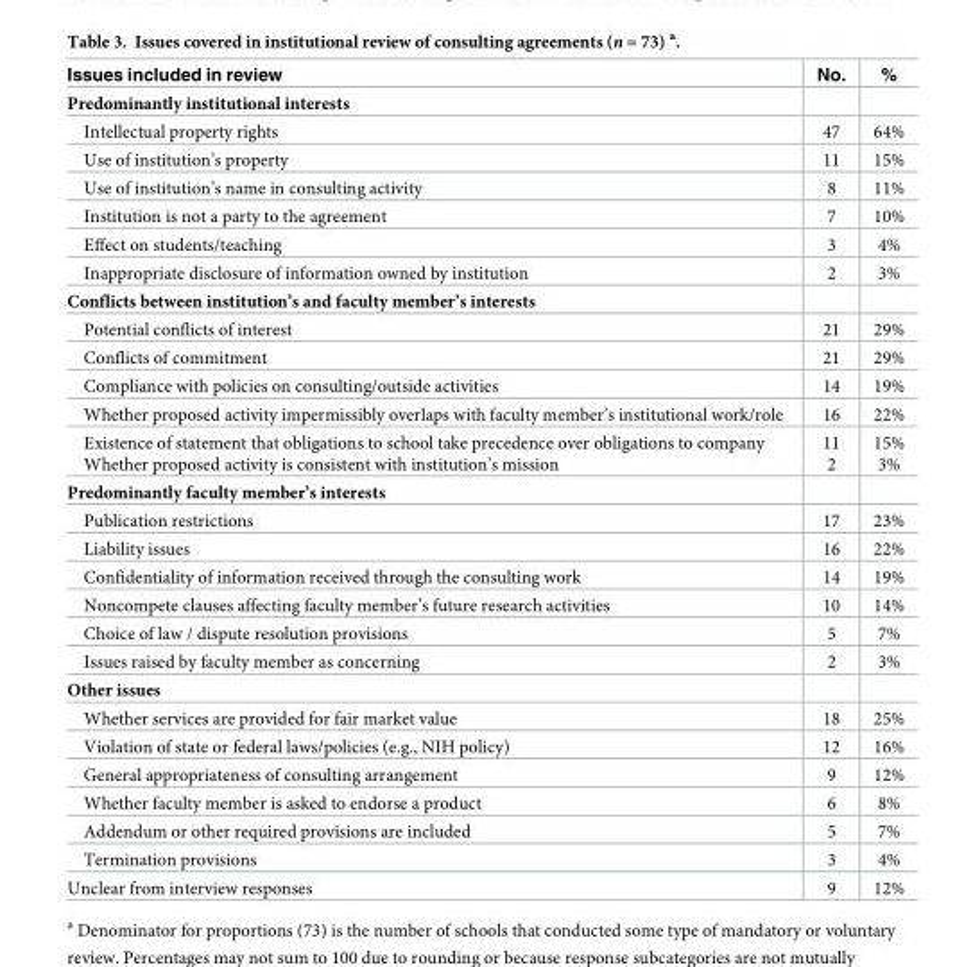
<table><thead><tr><td>Issues included in review</td><td>No.</td><td>%</td></tr></thead><tbody><tr><td colspan="3">Predominantly institutional interests</td></tr><tr><td>Intellectual property rights</td><td>47</td><td>64%</td></tr><tr><td>Use of institution’s property</td><td>11</td><td>15%</td></tr><tr><td>Use of institution’s name in consulting activity</td><td>8</td><td>11%</td></tr><tr><td>Institution is not a party to the agreement</td><td>7</td><td>10%</td></tr><tr><td>Effect on students/teaching</td><td>3</td><td>4%</td></tr><tr><td>Inappropriate disclosure of information owned by institution</td><td>2</td><td>3%</td></tr><tr><td colspan="3">Conflicts between institution’s and faculty member’s interests</td></tr><tr><td>Potential conflicts of interest</td><td>21</td><td>29%</td></tr><tr><td>Conflicts of commitment</td><td>21</td><td>29%</td></tr><tr><td>Compliance with policies on consulting/outside activities</td><td>14</td><td>19%</td></tr><tr><td>Whether proposed activity impermissibly overlaps with faculty member’s institutional work/role</td><td>16</td><td>22%</td></tr><tr><td>Existence of statement that obligations to school take precedence over obligations to company Whether proposed activity is consistent with institution’s mission</td><td>11 2</td><td>15% 3%</td></tr><tr><td colspan="3">Predominantly faculty member’s interests</td></tr><tr><td>Publication restrictions</td><td>17</td><td>23%</td></tr><tr><td>Liability issues</td><td>16</td><td>22%</td></tr><tr><td>Confidentiality of information received through the consulting work</td><td>14</td><td>19%</td></tr><tr><td>Noncompete clauses affecting faculty member’s future research activities</td><td>10</td><td>14%</td></tr><tr><td>Choice of law / dispute resolution provisions</td><td>5</td><td>7%</td></tr><tr><td>Issues raised by faculty member as concerning</td><td>2</td><td>3%</td></tr><tr><td colspan="3">Other issues</td></tr><tr><td>Whether services are provided for fair market value</td><td>18</td><td>25%</td></tr><tr><td>Violation of state or federal laws/policies (e.g., NIH policy)</td><td>12</td><td>16%</td></tr><tr><td>General appropriateness of consulting arrangement</td><td>9</td><td>12%</td></tr><tr><td>Whether faculty member is asked to endorse a product</td><td>6</td><td>8%</td></tr><tr><td>Addendum or other required provisions are included</td><td>5</td><td>7%</td></tr><tr><td>Termination provisions</td><td>3</td><td>4%</td></tr><tr><td>Unclear from interview responses</td><td>9</td><td>12%</td></tr></tbody></table>